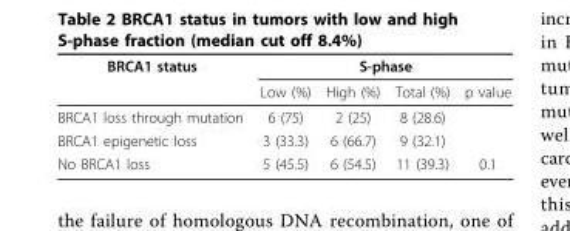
<table><thead><tr><td rowspan="2">BRCA1 status</td><td colspan="4">S-phase</td></tr><tr><td>Low (%)</td><td>High (%)</td><td>Total (%)</td><td>p value</td></tr></thead><tbody><tr><td>BRCA1 loss through mutation</td><td>6 (75)</td><td>2 (25)</td><td>8 (28.6)</td><td></td></tr><tr><td>BRCA1 epigenetic loss</td><td>3 (33.3)</td><td>6 (66.7)</td><td>9 (32.1)</td><td></td></tr><tr><td>No BRCA1 loss</td><td>5 (45.5)</td><td>6 (54.5)</td><td>11 (39.3)</td><td>0.1</td></tr></tbody></table>